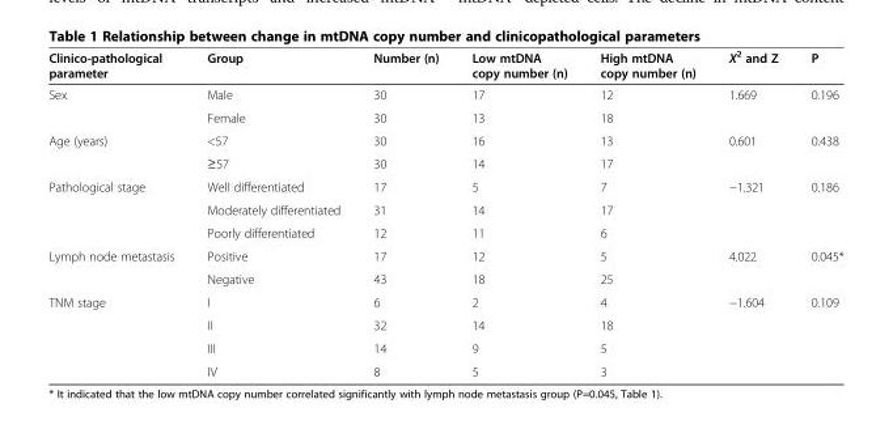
<table><thead><tr><td>Clinico-pathological parameter</td><td>Group</td><td>Number (n)</td><td>Low mtDNA copy number (n)</td><td>High mtDNA copy number (n)</td><td>Χ<sup>2</sup> and Z</td><td>P</td></tr></thead><tbody><tr><td rowspan="2">Sex</td><td>Male</td><td>30</td><td>17</td><td>12</td><td>1.669</td><td rowspan="2">0.196</td></tr><tr><td>Female</td><td>30</td><td>13</td><td>18</td><td></td></tr><tr><td rowspan="2">Age (years)</td><td>&lt;57</td><td>30</td><td>16</td><td>13</td><td>0.601</td><td rowspan="2">0.438</td></tr><tr><td>≥57</td><td>30</td><td>14</td><td>17</td><td></td></tr><tr><td rowspan="3">Pathological stage</td><td>Well differentiated</td><td>17</td><td>5</td><td>7</td><td>−1.321</td><td rowspan="3">0.186</td></tr><tr><td>Moderately differentiated</td><td>31</td><td>14</td><td>17</td><td></td></tr><tr><td>Poorly differentiated</td><td>12</td><td>11</td><td>6</td><td></td></tr><tr><td rowspan="2">Lymph node metastasis</td><td>Positive</td><td>17</td><td>12</td><td>5</td><td>4.022</td><td>0.045*</td></tr><tr><td>Negative</td><td>43</td><td>18</td><td>25</td><td></td><td></td></tr><tr><td rowspan="4">TNM stage</td><td>I</td><td>6</td><td>2</td><td>4</td><td>−1.604</td><td rowspan="3">0.109</td></tr><tr><td>II</td><td>32</td><td>14</td><td>18</td><td></td></tr><tr><td>III</td><td>14</td><td>9</td><td>5</td><td></td></tr><tr><td>IV</td><td>8</td><td>5</td><td>3</td><td></td><td></td></tr></tbody></table>